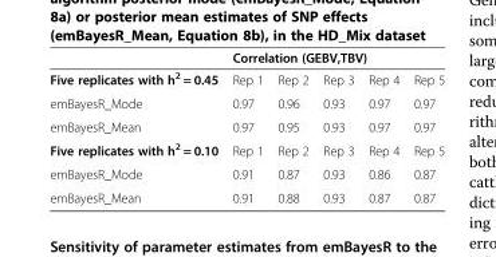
<table><thead><tr><td rowspan="2">Five replicates with h<sup>2</sup> = 0.45</td><td colspan="5">Correlation (GEBV,TBV)</td></tr><tr><td>Rep 1</td><td>Rep 2</td><td>Rep 3</td><td>Rep 4</td><td>Rep 5</td></tr></thead><tbody><tr><td>emBayesR_Mode</td><td>0.97</td><td>0.96</td><td>0.93</td><td>0.97</td><td>0.97</td></tr><tr><td>emBayesR_Mean</td><td>0.97</td><td>0.95</td><td>0.93</td><td>0.97</td><td>0.97</td></tr><tr><td>Five replicates with h<sup>2</sup> = 0.10</td><td>Rep 1</td><td>Rep 2</td><td>Rep 3</td><td>Rep 4</td><td>Rep 5</td></tr><tr><td>emBayesR_Mode</td><td>0.91</td><td>0.87</td><td>0.93</td><td>0.86</td><td>0.87</td></tr><tr><td>emBayesR_Mean</td><td>0.91</td><td>0.88</td><td>0.93</td><td>0.87</td><td>0.87</td></tr></tbody></table>